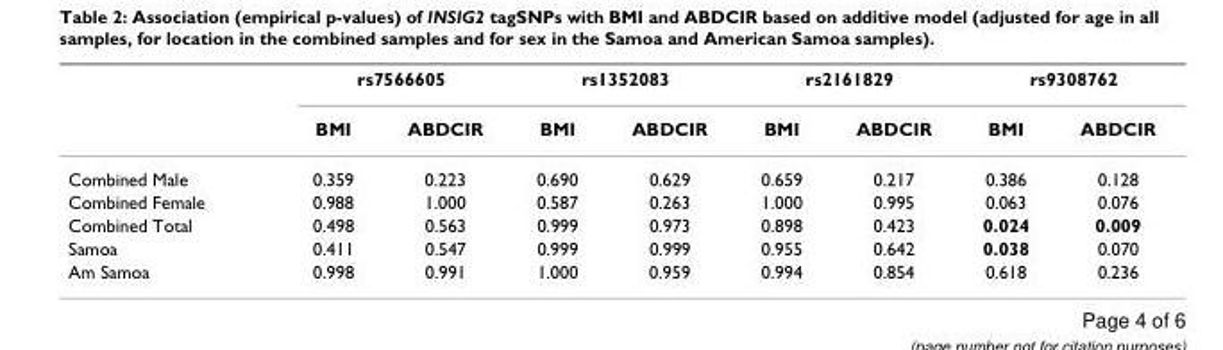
<table><thead><tr><td rowspan="2"></td><td colspan="2">rs7566605</td><td colspan="2">rs1352083</td><td colspan="2">rs2161829</td><td colspan="2">rs9308762</td></tr><tr><td>BMI</td><td>ABDCIR</td><td>BMI</td><td>ABDCIR</td><td>BMI</td><td>ABDCIR</td><td>BMI</td><td>ABDCIR</td></tr></thead><tbody><tr><td>Combined Male</td><td>0.359</td><td>0.223</td><td>0.690</td><td>0.629</td><td>0.659</td><td>0.217</td><td>0.386</td><td>0.128</td></tr><tr><td>Combined Female</td><td>0.988</td><td>1.000</td><td>0.587</td><td>0.263</td><td>1.000</td><td>0.995</td><td>0.063</td><td>0.076</td></tr><tr><td>Combined Total</td><td>0.498</td><td>0.563</td><td>0.999</td><td>0.973</td><td>0.898</td><td>0.423</td><td>0.024</td><td>0.009</td></tr><tr><td>Samoa</td><td>0.411</td><td>0.547</td><td>0.999</td><td>0.999</td><td>0.955</td><td>0.642</td><td>0.038</td><td>0.070</td></tr><tr><td>Am Samoa</td><td>0.998</td><td>0.991</td><td>1.000</td><td>0.959</td><td>0.994</td><td>0.854</td><td>0.618</td><td>0.236</td></tr></tbody></table>